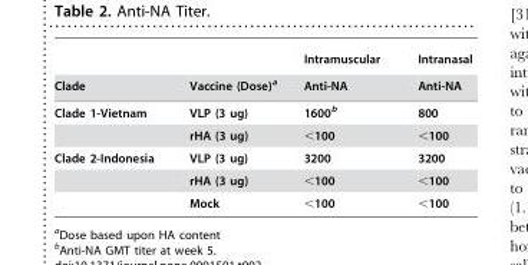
<table><thead><tr><td rowspan="2">Clade</td><td rowspan="2">Vaccine (Dose)<sup>a</sup></td><td rowspan="2">Intramuscular Anti-NA</td><td rowspan="2">Intranasal Anti-NA</td></tr><tr></tr></thead><tbody><tr><td rowspan="2">Clade 1-Vietnam</td><td>VLP (3 ug)</td><td>1600b</td><td>800</td></tr><tr><td>rHA (3 ug)</td><td>&lt;100</td><td>&lt;100</td></tr><tr><td rowspan="3">Clade 2-Indonesia</td><td>VLP (3 ug)</td><td>3200</td><td>3200</td></tr><tr><td>rHA (3 ug)</td><td>&lt;100</td><td>&lt;100</td></tr><tr><td>Mock</td><td>&lt;100</td><td>&lt;100</td></tr></tbody></table>